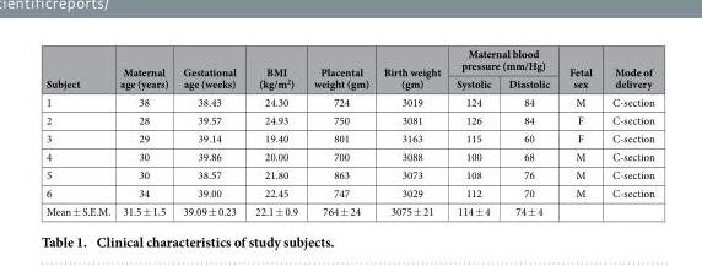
<table><thead><tr><td rowspan="2">Subject</td><td rowspan="2">Maternal age (years)</td><td rowspan="2">Gestational age (weeks)</td><td rowspan="2">BMI (kg/m<sup>2</sup>)</td><td rowspan="2">Placental weight (gm)</td><td rowspan="2">Birth weight (gm)</td><td colspan="2">Maternal blood pressure (mm/Hg)</td><td rowspan="2">Fetal sex</td><td rowspan="2">Mode of delivery</td></tr><tr><td>Systolic</td><td>Diastolic</td></tr></thead><tbody><tr><td>1</td><td>38</td><td>38.43</td><td>24.30</td><td>724</td><td>3019</td><td>124</td><td>84</td><td>M</td><td>C-section</td></tr><tr><td>2</td><td>28</td><td>39.57</td><td>24.93</td><td>750</td><td>3081</td><td>126</td><td>84</td><td>F</td><td>C-section</td></tr><tr><td>3</td><td>29</td><td>39.14</td><td>19.40</td><td>801</td><td>3163</td><td>115</td><td>60</td><td>F</td><td>C-section</td></tr><tr><td>4</td><td>30</td><td>39.86</td><td>20.00</td><td>700</td><td>3088</td><td>100</td><td>68</td><td>M</td><td>C-section</td></tr><tr><td>5</td><td>30</td><td>38.57</td><td>21.80</td><td>863</td><td>3073</td><td>108</td><td>76</td><td>M</td><td>C-section</td></tr><tr><td>6</td><td>34</td><td>39.00</td><td>22.45</td><td>747</td><td>3029</td><td>112</td><td>70</td><td>M</td><td>C-section</td></tr><tr><td>Mean ± S.E.M.</td><td>31.5 ± 1.5</td><td>39.09 ± 0.23</td><td>22.1 ± 0.9</td><td>764 ± 24</td><td>3075 ± 21</td><td>114 ± 4</td><td>74 ± 4</td><td></td><td></td></tr></tbody></table>